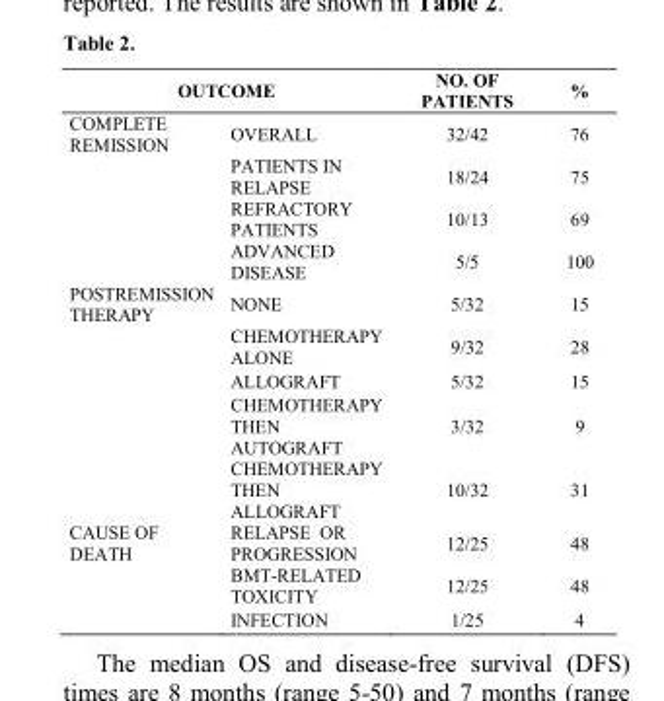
<table><thead><tr><td colspan="2">OUTCOME</td><td rowspan="2">NO. OF PATIENTS 32/42</td><td rowspan="2">% 76</td></tr><tr><td>COMPLETE REMISSION</td><td>OVERALL</td></tr></thead><tbody><tr><td></td><td>PATIENTS IN RELAPSE</td><td>18/24</td><td>75</td></tr><tr><td></td><td>REFRACTORY PATIENTS</td><td>10/13</td><td>69</td></tr><tr><td></td><td>ADVANCED DISEASE</td><td>5/5</td><td>100</td></tr><tr><td rowspan="5">POSTREMISSION THERAPY</td><td>NONE</td><td>5/32</td><td>15</td></tr><tr><td>CHEMOTHERAPY ALONE</td><td>9/32</td><td>28</td></tr><tr><td>ALLOGRAFT</td><td>5/32</td><td>15</td></tr><tr><td>CHEMOTHERAPY THEN AUTOGRAFT</td><td>3/32</td><td>9</td></tr><tr><td>CHEMOTHERAPY THEN ALLOGRAFT</td><td>10/32</td><td>31</td></tr><tr><td rowspan="3">CAUSE OF DEATH</td><td>RELAPSE OR PROGRESSION</td><td>12/25</td><td>48</td></tr><tr><td>BMT-RELATED TOXICITY</td><td>12/25</td><td>48</td></tr><tr><td>INFECTION</td><td>1/25</td><td>4</td></tr></tbody></table>